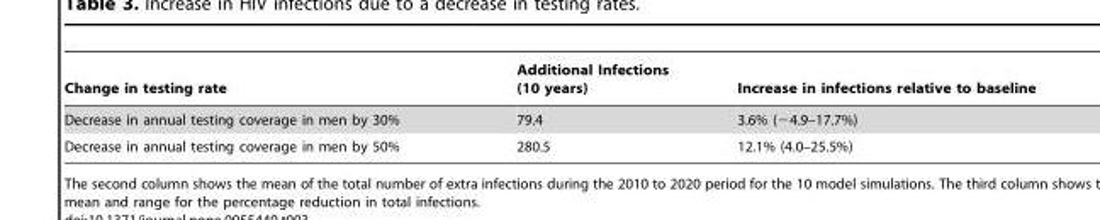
<table><thead><tr><td>Change in testing rate</td><td>Additional Infections (10 years)</td><td>Increase in infections relative to baseline</td></tr></thead><tbody><tr><td>Decrease in annual testing coverage in men by 30%</td><td>79.4</td><td>3.6% (−4.9–17.7%)</td></tr><tr><td>Decrease in annual testing coverage in men by 50%</td><td>280.5</td><td>12.1% (4.0–25.5%)</td></tr></tbody></table>